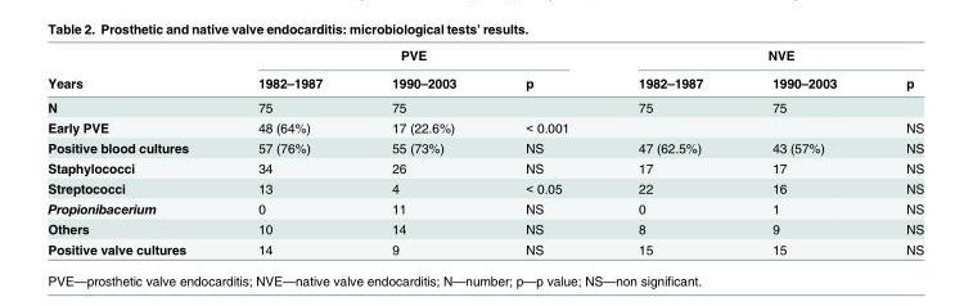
<table><thead><tr><td rowspan="2">Years</td><td colspan="3">PVE</td><td colspan="3">NVE</td></tr><tr><td>1982–1987</td><td>1990–2003</td><td>p</td><td>1982–1987</td><td>1990–2003</td><td>p</td></tr></thead><tbody><tr><td>N</td><td>75</td><td>75</td><td></td><td>75</td><td>75</td><td></td></tr><tr><td>Early PVE</td><td>48 (64%)</td><td>17 (22.6%)</td><td>&lt; 0.001</td><td></td><td></td><td>NS</td></tr><tr><td>Positive blood cultures</td><td>57 (76%)</td><td>55 (73%)</td><td>NS</td><td>47 (62.5%)</td><td>43 (57%)</td><td>NS</td></tr><tr><td>Staphylococci</td><td>34</td><td>26</td><td>NS</td><td>17</td><td>17</td><td>NS</td></tr><tr><td>Streptococci</td><td>13</td><td>4</td><td>&lt; 0.05</td><td>22</td><td>16</td><td>NS</td></tr><tr><td>Propionibacerium</td><td>0</td><td>11</td><td>NS</td><td>0</td><td>1</td><td>NS</td></tr><tr><td>Others</td><td>10</td><td>14</td><td>NS</td><td>8</td><td>9</td><td>NS</td></tr><tr><td>Positive valve cultures</td><td>14</td><td>9</td><td>NS</td><td>15</td><td>15</td><td>NS</td></tr></tbody></table>